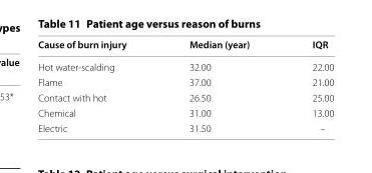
<table><thead><tr><td>Cause of burn injury</td><td>Median (year)</td><td>IQR</td></tr></thead><tbody><tr><td>Hot water-scalding</td><td>32.00</td><td>22.00</td></tr><tr><td>Flame</td><td>37.00</td><td>21.00</td></tr><tr><td>Contact with hot</td><td>26.50</td><td>25.00</td></tr><tr><td>Chemical</td><td>31.00</td><td>13.00</td></tr><tr><td>Electric</td><td>31.50</td><td>–</td></tr></tbody></table>